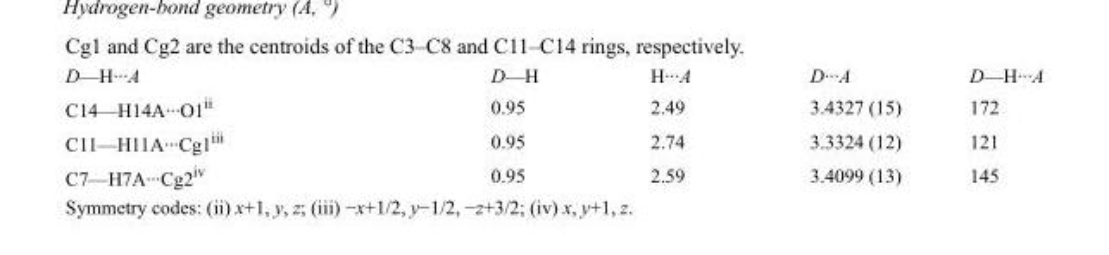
<table><tbody><tr><td>D—H···A</td><td>D—H</td><td>H···A</td><td>D···A</td><td>D—H···A</td></tr><tr><td>C14—H14A···O1<sup>ii</sup></td><td>0.95</td><td>2.49</td><td>3.4327 (15)</td><td>172</td></tr><tr><td>C11—H11A···Cg1<sup>iii</sup></td><td>0.95</td><td>2.74</td><td>3.3324 (12)</td><td>121</td></tr><tr><td>C7—H7A···Cg2<sup>iv</sup></td><td>0.95</td><td>2.59</td><td>3.4099 (13)</td><td>145</td></tr></tbody></table>